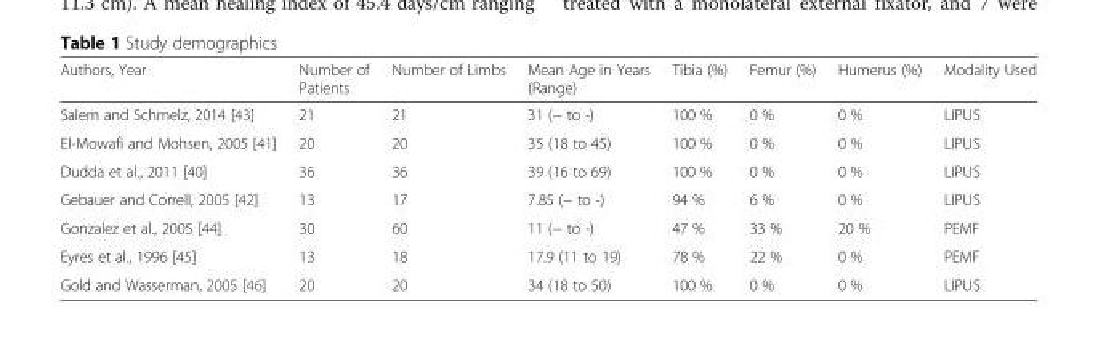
<table><thead><tr><td>Authors, Year</td><td>Number of Patients</td><td>Number of Limbs</td><td>Mean Age in Years (Range)</td><td>Tibia (%)</td><td>Femur (%)</td><td>Humerus (%)</td><td>Modality Used</td></tr></thead><tbody><tr><td>Salem and Schmelz, 2014 [43]</td><td>21</td><td>21</td><td>31 (− to -)</td><td>100 %</td><td>0 %</td><td>0 %</td><td>LIPUS</td></tr><tr><td>El-Mowafi and Mohsen, 2005 [41]</td><td>20</td><td>20</td><td>35 (18 to 45)</td><td>100 %</td><td>0 %</td><td>0 %</td><td>LIPUS</td></tr><tr><td>Dudda et al., 2011 [40]</td><td>36</td><td>36</td><td>39 (16 to 69)</td><td>100 %</td><td>0 %</td><td>0 %</td><td>LIPUS</td></tr><tr><td>Gebauer and Correll, 2005 [42]</td><td>13</td><td>17</td><td>7.85 (− to -)</td><td>94 %</td><td>6 %</td><td>0 %</td><td>LIPUS</td></tr><tr><td>Gonzalez et al., 2005 [44]</td><td>30</td><td>60</td><td>11 (− to -)</td><td>47 %</td><td>33 %</td><td>20 %</td><td>PEMF</td></tr><tr><td>Eyres et al., 1996 [45]</td><td>13</td><td>18</td><td>17.9 (11 to 19)</td><td>78 %</td><td>22 %</td><td>0 %</td><td>PEMF</td></tr><tr><td>Gold and Wasserman, 2005 [46]</td><td>20</td><td>20</td><td>34 (18 to 50)</td><td>100 %</td><td>0 %</td><td>0 %</td><td>LIPUS</td></tr></tbody></table>